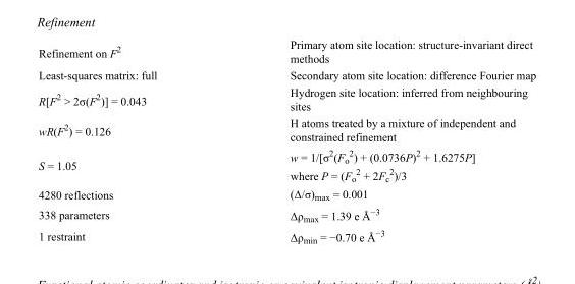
<table><tbody><tr><td>Refinement on F<sup>2</sup></td><td>Primary atom site location: structure-invariant direct methods</td></tr><tr><td>Least-squares matrix: full</td><td>Secondary atom site location: difference Fourier map</td></tr><tr><td>R[F<sup>2</sup> &gt; 2σ(F<sup>2</sup>)] = 0.043</td><td>Hydrogen site location: inferred from neighbouring sites</td></tr><tr><td>wR(F<sup>2</sup>) = 0.126</td><td>H atoms treated by a mixture of independent and constrained refinement</td></tr><tr><td>S = 1.05</td><td>w = 1/[σ<sup>2</sup>(F<sub>o</sub> <sup>2</sup>) + (0.0736P)<sup>2</sup> + 1.6275P] where P = (F<sub>o</sub> <sup>2</sup> + 2F<sub>c</sub> <sup>2</sup>)/3</td></tr><tr><td>4280 reflections</td><td>(Δ/σ)<sub>max</sub> = 0.001</td></tr><tr><td>338 parameters</td><td>Δρ<sub>max</sub> = 1.39 e Å<sup>−3</sup></td></tr><tr><td>1 restraint</td><td>Δρ<sub>min</sub> = −0.70 e Å<sup>−3</sup></td></tr></tbody></table>